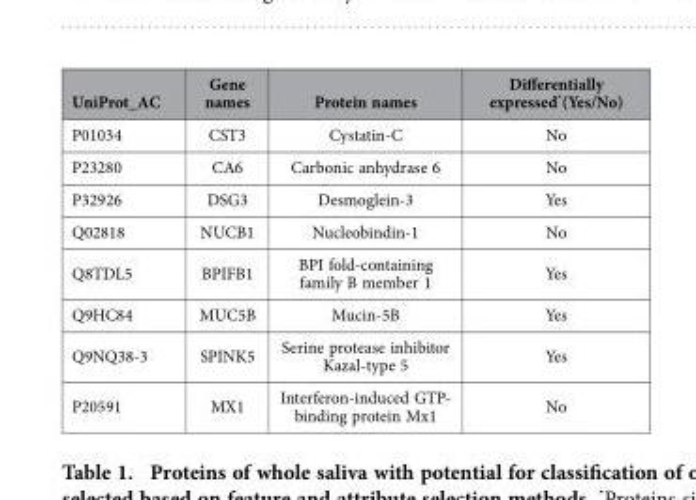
<table><thead><tr><td>UniProt_AC</td><td>Gene names</td><td>Protein names</td><td>Differentially expressed*(Yes/No)</td></tr></thead><tbody><tr><td>P01034</td><td>CST3</td><td>Cystatin-C</td><td>No</td></tr><tr><td>P23280</td><td>CA6</td><td>Carbonic anhydrase 6</td><td>No</td></tr><tr><td>P32926</td><td>DSG3</td><td>Desmoglein-3</td><td>Yes</td></tr><tr><td>Q02818</td><td>NUCB1</td><td>Nucleobindin-1</td><td>No</td></tr><tr><td>Q8TDL5</td><td>BPIFB1</td><td>BPI fold-containing family B member 1</td><td>Yes</td></tr><tr><td>Q9HC84</td><td>MUC5B</td><td>Mucin-5B</td><td>Yes</td></tr><tr><td>Q9NQ38-3</td><td>SPINK5</td><td>Serine protease inhibitor Kazal-type 5</td><td>Yes</td></tr><tr><td>P20591</td><td>MX1</td><td>Interferon-induced GTP- binding protein Mx1</td><td>No</td></tr></tbody></table>